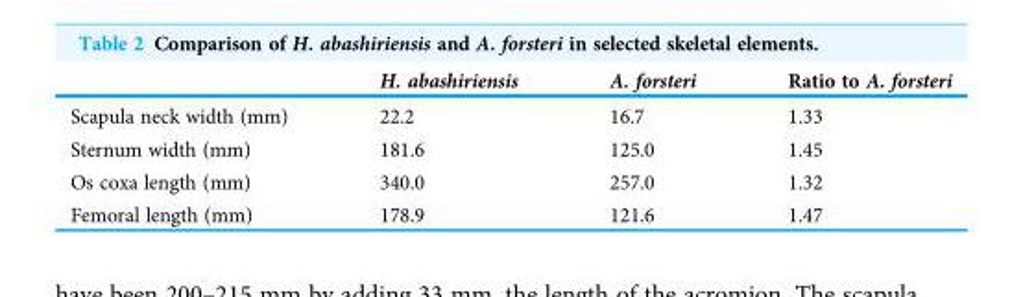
<table><thead><tr><td></td><td>H. abashiriensis</td><td>A. forsteri</td><td>Ratio to A. forsteri</td></tr></thead><tbody><tr><td>Scapula neck width (mm)</td><td>22.2</td><td>16.7</td><td>1.33</td></tr><tr><td>Sternum width (mm)</td><td>181.6</td><td>125.0</td><td>1.45</td></tr><tr><td>Os coxa length (mm)</td><td>340.0</td><td>257.0</td><td>1.32</td></tr><tr><td>Femoral length (mm)</td><td>178.9</td><td>121.6</td><td>1.47</td></tr></tbody></table>